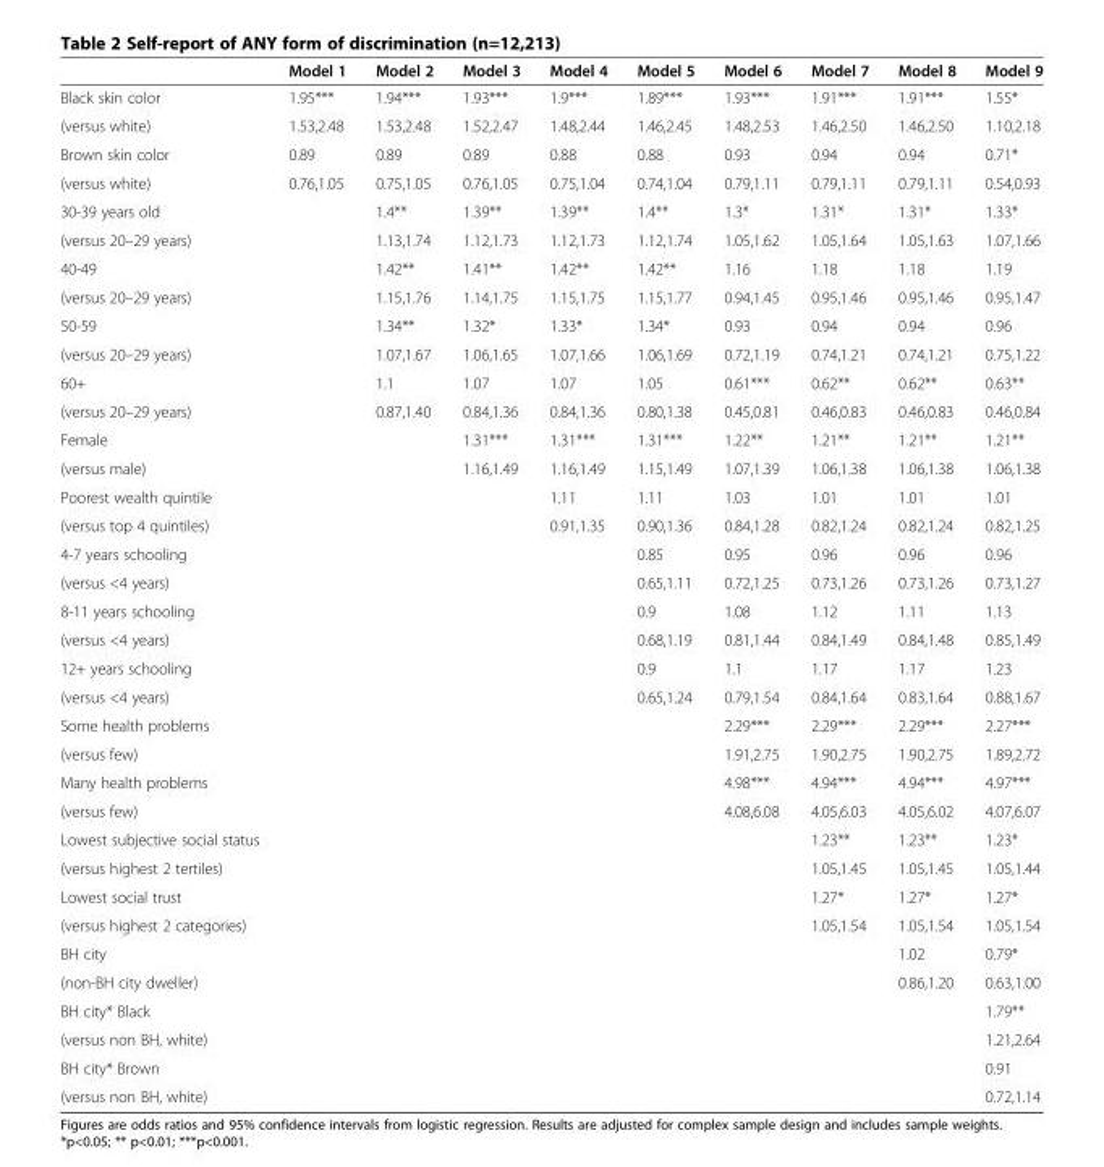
<table><thead><tr><td></td><td>Model 1</td><td>Model 2</td><td>Model 3</td><td>Model 4</td><td>Model 5</td><td>Model 6</td><td>Model 7</td><td>Model 8</td><td>Model 9</td></tr></thead><tbody><tr><td>Black skin color</td><td>1.95***</td><td>1.94***</td><td>1.93***</td><td>1.9***</td><td>1.89***</td><td>1.93***</td><td>1.91***</td><td>1.91***</td><td>1.55*</td></tr><tr><td>(versus white)</td><td>1.53,2.48</td><td>1.53,2.48</td><td>1.52,2.47</td><td>1.48,2.44</td><td>1.46,2.45</td><td>1.48,2.53</td><td>1.46,2.50</td><td>1.46,2.50</td><td>1.10,2.18</td></tr><tr><td>Brown skin color</td><td>0.89</td><td>0.89</td><td>0.89</td><td>0.88</td><td>0.88</td><td>0.93</td><td>0.94</td><td>0.94</td><td>0.71*</td></tr><tr><td>(versus white)</td><td>0.76,1.05</td><td>0.75,1.05</td><td>0.76,1.05</td><td>0.75,1.04</td><td>0.74,1.04</td><td>0.79,1.11</td><td>0.79,1.11</td><td>0.79,1.11</td><td>0.54,0.93</td></tr><tr><td>30-39 years old</td><td></td><td>1.4**</td><td>1.39**</td><td>1.39**</td><td>1.4**</td><td>1.3*</td><td>1.31*</td><td>1.31*</td><td>1.33*</td></tr><tr><td>(versus 20–29 years)</td><td></td><td>1.13,1.74</td><td>1.12,1.73</td><td>1.12,1.73</td><td>1.12,1.74</td><td>1.05,1.62</td><td>1.05,1.64</td><td>1.05,1.63</td><td>1.07,1.66</td></tr><tr><td>40-49</td><td></td><td>1.42**</td><td>1.41**</td><td>1.42**</td><td>1.42**</td><td>1.16</td><td>1.18</td><td>1.18</td><td>1.19</td></tr><tr><td>(versus 20–29 years)</td><td></td><td>1.15,1.76</td><td>1.14,1.75</td><td>1.15,1.75</td><td>1.15,1.77</td><td>0.94,1.45</td><td>0.95,1.46</td><td>0.95,1.46</td><td>0.95,1.47</td></tr><tr><td>50-59</td><td></td><td>1.34**</td><td>1.32*</td><td>1.33*</td><td>1.34*</td><td>0.93</td><td>0.94</td><td>0.94</td><td>0.96</td></tr><tr><td>(versus 20–29 years)</td><td></td><td>1.07,1.67</td><td>1.06,1.65</td><td>1.07,1.66</td><td>1.06,1.69</td><td>0.72,1.19</td><td>0.74,1.21</td><td>0.74,1.21</td><td>0.75,1.22</td></tr><tr><td>60+</td><td></td><td>1.1</td><td>1.07</td><td>1.07</td><td>1.05</td><td>0.61***</td><td>0.62**</td><td>0.62**</td><td>0.63**</td></tr><tr><td>(versus 20–29 years)</td><td></td><td>0.87,1.40</td><td>0.84,1.36</td><td>0.84,1.36</td><td>0.80,1.38</td><td>0.45,0.81</td><td>0.46,0.83</td><td>0.46,0.83</td><td>0.46,0.84</td></tr><tr><td>Female</td><td></td><td></td><td>1.31***</td><td>1.31***</td><td>1.31***</td><td>1.22**</td><td>1.21**</td><td>1.21**</td><td>1.21**</td></tr><tr><td>(versus male)</td><td></td><td></td><td>1.16,1.49</td><td>1.16,1.49</td><td>1.15,1.49</td><td>1.07,1.39</td><td>1.06,1.38</td><td>1.06,1.38</td><td>1.06,1.38</td></tr><tr><td>Poorest wealth quintile</td><td></td><td></td><td></td><td>1.11</td><td>1.11</td><td>1.03</td><td>1.01</td><td>1.01</td><td>1.01</td></tr><tr><td>(versus top 4 quintiles)</td><td></td><td></td><td></td><td>0.91,1.35</td><td>0.90,1.36</td><td>0.84,1.28</td><td>0.82,1.24</td><td>0.82,1.24</td><td>0.82,1.25</td></tr><tr><td>4-7 years schooling</td><td></td><td></td><td></td><td></td><td>0.85</td><td>0.95</td><td>0.96</td><td>0.96</td><td>0.96</td></tr><tr><td>(versus &lt;4 years)</td><td></td><td></td><td></td><td></td><td>0.65,1.11</td><td>0.72,1.25</td><td>0.73,1.26</td><td>0.73,1.26</td><td>0.73,1.27</td></tr><tr><td>8-11 years schooling</td><td></td><td></td><td></td><td></td><td>0.9</td><td>1.08</td><td>1.12</td><td>1.11</td><td>1.13</td></tr><tr><td>(versus &lt;4 years)</td><td></td><td></td><td></td><td></td><td>0.68,1.19</td><td>0.81,1.44</td><td>0.84,1.49</td><td>0.84,1.48</td><td>0.85,1.49</td></tr><tr><td>12+ years schooling</td><td></td><td></td><td></td><td></td><td>0.9</td><td>1.1</td><td>1.17</td><td>1.17</td><td>1.23</td></tr><tr><td>(versus &lt;4 years)</td><td></td><td></td><td></td><td></td><td>0.65,1.24</td><td>0.79,1.54</td><td>0.84,1.64</td><td>0.83,1.64</td><td>0.88,1.67</td></tr><tr><td>Some health problems</td><td></td><td></td><td></td><td></td><td></td><td>2.29***</td><td>2.29***</td><td>2.29***</td><td>2.27***</td></tr><tr><td>(versus few)</td><td></td><td></td><td></td><td></td><td></td><td>1.91,2.75</td><td>1.90,2.75</td><td>1.90,2.75</td><td>1.89,2.72</td></tr><tr><td>Many health problems</td><td></td><td></td><td></td><td></td><td></td><td>4.98***</td><td>4.94***</td><td>4.94***</td><td>4.97***</td></tr><tr><td>(versus few)</td><td></td><td></td><td></td><td></td><td></td><td>4.08,6.08</td><td>4.05,6.03</td><td>4.05,6.02</td><td>4.07,6.07</td></tr><tr><td>Lowest subjective social status</td><td></td><td></td><td></td><td></td><td></td><td></td><td>1.23**</td><td>1.23**</td><td>1.23*</td></tr><tr><td>(versus highest 2 tertiles)</td><td></td><td></td><td></td><td></td><td></td><td></td><td>1.05,1.45</td><td>1.05,1.45</td><td>1.05,1.44</td></tr><tr><td>Lowest social trust</td><td></td><td></td><td></td><td></td><td></td><td></td><td>1.27*</td><td>1.27*</td><td>1.27*</td></tr><tr><td>(versus highest 2 categories)</td><td></td><td></td><td></td><td></td><td></td><td></td><td>1.05,1.54</td><td>1.05,1.54</td><td>1.05,1.54</td></tr><tr><td>BH city</td><td></td><td></td><td></td><td></td><td></td><td></td><td></td><td>1.02</td><td>0.79*</td></tr><tr><td>(non-BH city dweller)</td><td></td><td></td><td></td><td></td><td></td><td></td><td></td><td>0.86,1.20</td><td>0.63,1.00</td></tr><tr><td>BH city* Black</td><td></td><td></td><td></td><td></td><td></td><td></td><td></td><td></td><td>1.79**</td></tr><tr><td>(versus non BH, white)</td><td></td><td></td><td></td><td></td><td></td><td></td><td></td><td></td><td>1.21,2.64</td></tr><tr><td>BH city* Brown</td><td></td><td></td><td></td><td></td><td></td><td></td><td></td><td></td><td>0.91</td></tr><tr><td>(versus non BH, white)</td><td></td><td></td><td></td><td></td><td></td><td></td><td></td><td></td><td>0.72,1.14</td></tr></tbody></table>